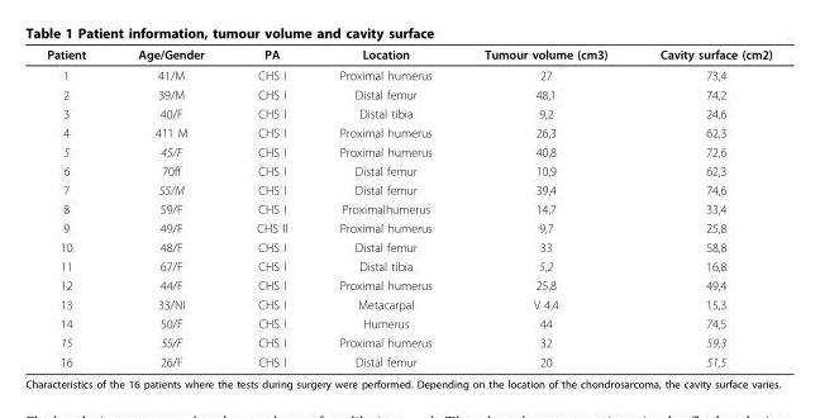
<table><thead><tr><td>Patient</td><td>Age/Gender</td><td>PA</td><td>Location</td><td>Tumour volume (cm3)</td><td>Cavity surface (cm2)</td></tr></thead><tbody><tr><td>1</td><td>41/M</td><td>CHS I</td><td>Proximal humerus</td><td>27</td><td>73,4</td></tr><tr><td>2</td><td>39/M</td><td>CHS I</td><td>Distal femur</td><td>48,1</td><td>74,2</td></tr><tr><td>3</td><td>40/F</td><td>CHS I</td><td>Distal tibia</td><td>9,2</td><td>24,6</td></tr><tr><td>4</td><td>411 M</td><td>CHS I</td><td>Proximal humerus</td><td>26,3</td><td>62,3</td></tr><tr><td>5</td><td>45/F</td><td>CHS I</td><td>Proximal humerus</td><td>40,8</td><td>72,6</td></tr><tr><td>6</td><td>70ff</td><td>CHS I</td><td>Distal femur</td><td>10,9</td><td>62,3</td></tr><tr><td>7</td><td>55/M</td><td>CHS I</td><td>Distal femur</td><td>39,4</td><td>74,6</td></tr><tr><td>8</td><td>59/F</td><td>CHS I</td><td>Proximalhumerus</td><td>14,7</td><td>33,4</td></tr><tr><td>9</td><td>49/F</td><td>CHS II</td><td>Proximal humerus</td><td>9,7</td><td>25,8</td></tr><tr><td>10</td><td>48/F</td><td>CHS I</td><td>Distal femur</td><td>33</td><td>58,8</td></tr><tr><td>11</td><td>67/F</td><td>CHS I</td><td>Distal tibia</td><td>5,2</td><td>16,8</td></tr><tr><td>12</td><td>44/F</td><td>CHS I</td><td>Proximal humerus</td><td>25,8</td><td>49,4</td></tr><tr><td>13</td><td>33/NI</td><td>CHS I</td><td>Metacarpal</td><td>V 4,4</td><td>15,3</td></tr><tr><td>14</td><td>50/F</td><td>CHS I</td><td>Humerus</td><td>44</td><td>74,5</td></tr><tr><td>15</td><td>55/F</td><td>CHS I</td><td>Proximal humerus</td><td>32</td><td>59,3</td></tr><tr><td>16</td><td>26/F</td><td>CHS I</td><td>Distal femur</td><td>20</td><td>51,5</td></tr></tbody></table>